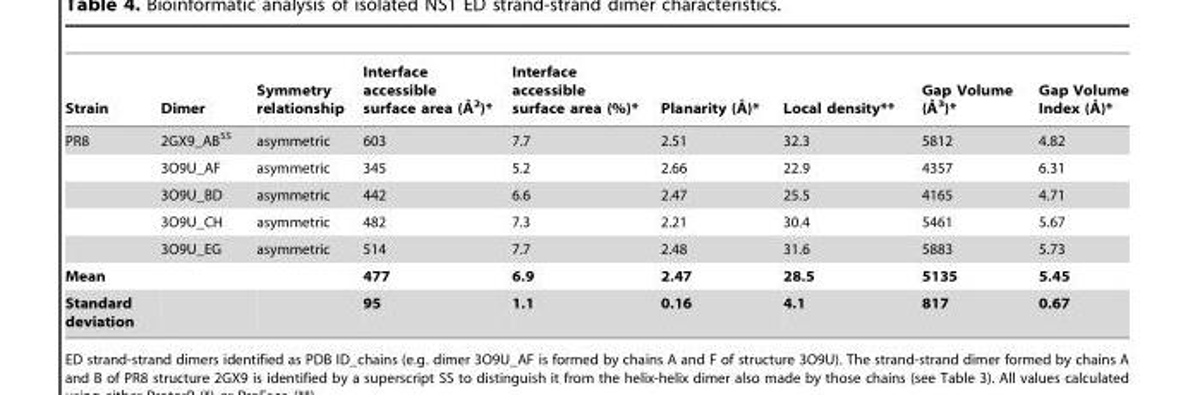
<table><thead><tr><td>Strain</td><td>Dimer</td><td>Symmetry relationship</td><td>Interface accessible surface area (A˚ 2)*</td><td>Interface accessible surface area (%)*</td><td>Planarity (A˚)*</td><td>Local density**</td><td>Gap Volume (A˚ 3)*</td><td>Gap Volume Index (A˚ )*</td></tr></thead><tbody><tr><td rowspan="5">PR8</td><td>2GX9_AB<sup>SS</sup></td><td>asymmetric</td><td>603</td><td>7.7</td><td>2.51</td><td>32.3</td><td>5812</td><td>4.82</td></tr><tr><td>3O9U_AF</td><td>asymmetric</td><td>345</td><td>5.2</td><td>2.66</td><td>22.9</td><td>4357</td><td>6.31</td></tr><tr><td>3O9U_BD</td><td>asymmetric</td><td>442</td><td>6.6</td><td>2.47</td><td>25.5</td><td>4165</td><td>4.71</td></tr><tr><td>3O9U_CH</td><td>asymmetric</td><td>482</td><td>7.3</td><td>2.21</td><td>30.4</td><td>5461</td><td>5.67</td></tr><tr><td>3O9U_EG</td><td>asymmetric</td><td>514</td><td>7.7</td><td>2.48</td><td>31.6</td><td>5883</td><td>5.73</td></tr><tr><td>Mean</td><td></td><td></td><td>477</td><td>6.9</td><td>2.47</td><td>28.5</td><td>5135</td><td>5.45</td></tr><tr><td>Standard deviation</td><td></td><td></td><td>95</td><td>1.1</td><td>0.16</td><td>4.1</td><td>817</td><td>0.67</td></tr></tbody></table>